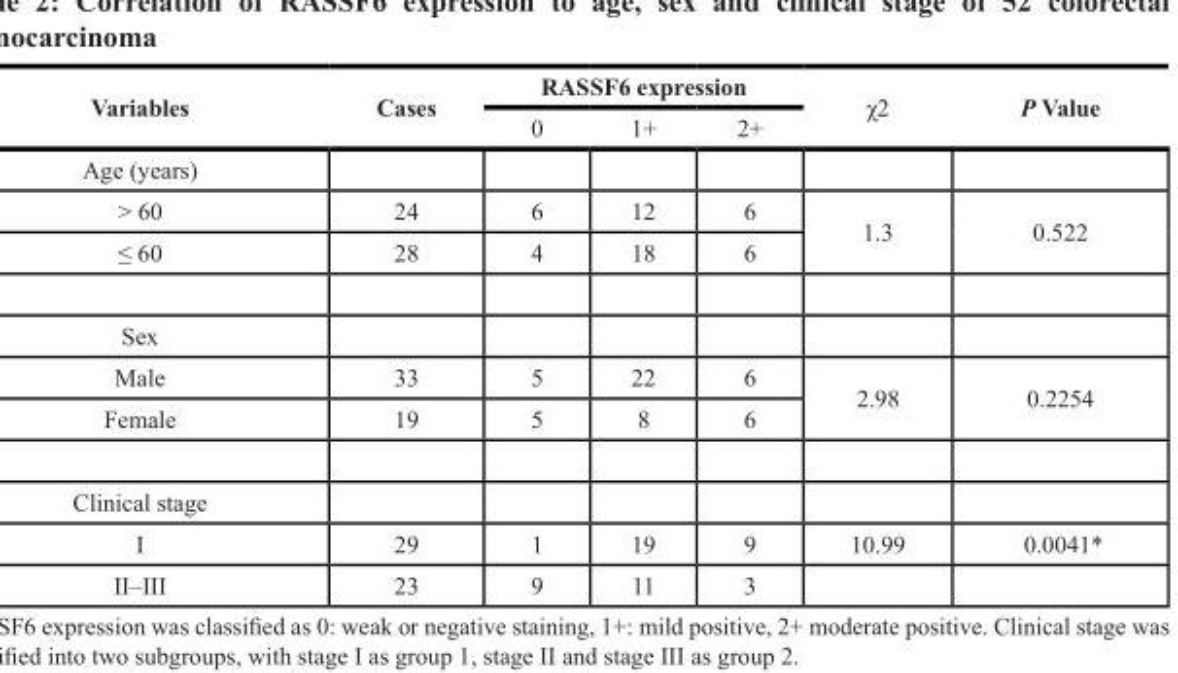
<table><thead><tr><td rowspan="2">Variables</td><td rowspan="2">Cases</td><td colspan="3">RASSF6 expression</td><td rowspan="2">χ<sup>2</sup></td><td rowspan="2">P Value</td></tr><tr><td>0</td><td>1+</td><td>2+</td></tr></thead><tbody><tr><td colspan="7">Age (years)</td></tr><tr><td>&gt; 60</td><td>24</td><td>6</td><td>12</td><td>6</td><td rowspan="2">1.3</td><td rowspan="2">0.522</td></tr><tr><td>≤ 60</td><td>28</td><td>4</td><td>18</td><td>6</td></tr><tr><td colspan="7">Sex</td></tr><tr><td>Male</td><td>33</td><td>5</td><td>22</td><td>6</td><td rowspan="2">2.98</td><td rowspan="2">0.2254</td></tr><tr><td>Female</td><td>19</td><td>5</td><td>8</td><td>6</td></tr><tr><td colspan="7">Clinical stage</td></tr><tr><td>I</td><td>29</td><td>1</td><td>19</td><td>9</td><td>10.99</td><td>0.0041*</td></tr><tr><td>II–III</td><td>23</td><td>9</td><td>11</td><td>3</td><td></td><td></td></tr></tbody></table>